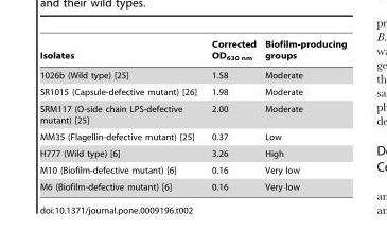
<table><thead><tr><td>Isolates</td><td>Corrected OD<sub>630 nm</sub></td><td>Biofilm-producing groups</td></tr></thead><tbody><tr><td>1026b (Wild type) [25]</td><td>1.58</td><td>Moderate</td></tr><tr><td>SR1015 (Capsule-defective mutant) [26]</td><td>1.98</td><td>Moderate</td></tr><tr><td>SRM117 (O-side chain LPS-defective mutant) [25]</td><td>2.00</td><td>Moderate</td></tr><tr><td>MM35 (Flagellin-defective mutant) [25]</td><td>0.37</td><td>Low</td></tr><tr><td>H777 (Wild type) [6]</td><td>3.26</td><td>High</td></tr><tr><td>M10 (Biofilm-defective mutant) [6]</td><td>0.16</td><td>Very low</td></tr><tr><td>M6 (Biofilm-defective mutant) [6]</td><td>0.16</td><td>Very low</td></tr></tbody></table>